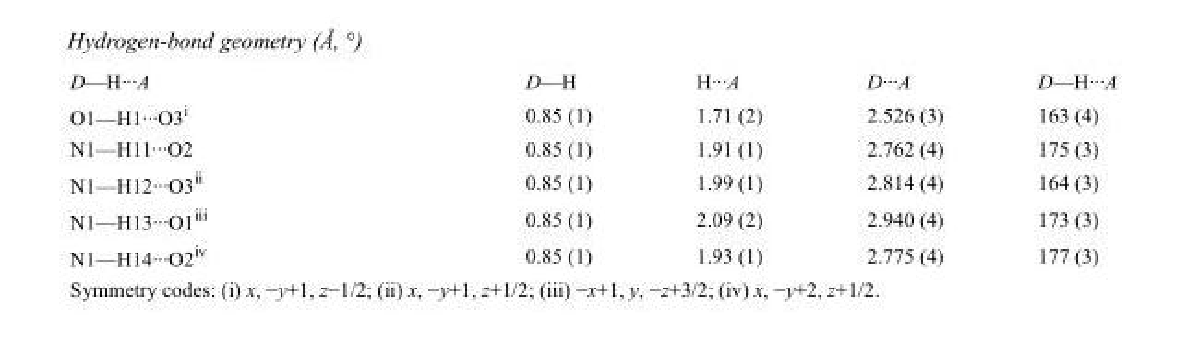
<table><tbody><tr><td>D—H···A</td><td>D—H</td><td>H···A</td><td>D···A</td><td>D—H···A</td></tr><tr><td>O1—H1···O3<sup>i</sup></td><td>0.85 (1)</td><td>1.71 (2)</td><td>2.526 (3)</td><td>163 (4)</td></tr><tr><td>N1—H11···O2</td><td>0.85 (1)</td><td>1.91 (1)</td><td>2.762 (4)</td><td>175 (3)</td></tr><tr><td>N1—H12···O3<sup>ii</sup></td><td>0.85 (1)</td><td>1.99 (1)</td><td>2.814 (4)</td><td>164 (3)</td></tr><tr><td>N1—H13···O1<sup>iii</sup></td><td>0.85 (1)</td><td>2.09 (2)</td><td>2.940 (4)</td><td>173 (3)</td></tr><tr><td>N1—H14···O2<sup>iv</sup></td><td>0.85 (1)</td><td>1.93 (1)</td><td>2.775 (4)</td><td>177 (3)</td></tr></tbody></table>